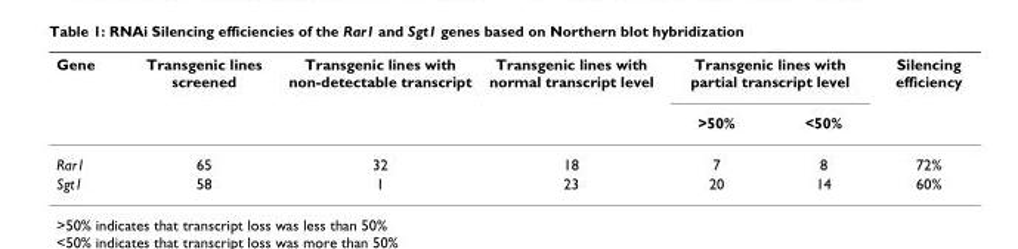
<table><thead><tr><td rowspan="2">Gene</td><td rowspan="2">Transgenic lines screened</td><td rowspan="2">Transgenic lines with non-detectable transcript</td><td rowspan="2">Transgenic lines with normal transcript level</td><td colspan="2">Transgenic lines with partial transcript level</td><td rowspan="2">Silencing efficiency</td></tr><tr><td>&gt;50%</td><td>&lt;50%</td></tr></thead><tbody><tr><td>Rar1</td><td>65</td><td>32</td><td>18</td><td>7</td><td>8</td><td>72%</td></tr><tr><td>Sgt1</td><td>58</td><td>1</td><td>23</td><td>20</td><td>14</td><td>60%</td></tr></tbody></table>